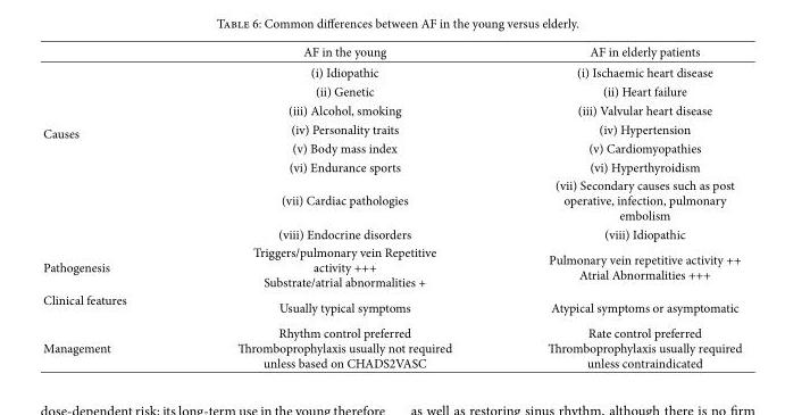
<table><thead><tr><td></td><td>AF in the young</td><td>AF in elderly patients</td></tr></thead><tbody><tr><td rowspan="8">Causes</td><td>(i) Idiopathic</td><td>(i) Ischaemic heart disease</td></tr><tr><td>(ii) Genetic</td><td>(ii) Heart failure</td></tr><tr><td>(iii) Alcohol, smoking</td><td>(iii) Valvular heart disease</td></tr><tr><td>(iv) Personality traits</td><td>(iv) Hypertension</td></tr><tr><td>(v) Body mass index</td><td>(v) Cardiomyopathies</td></tr><tr><td>(vi) Endurance sports</td><td>(vi) Hyperthyroidism</td></tr><tr><td>(vii) Cardiac pathologies</td><td>(vii) Secondary causes such as post operative, infection, pulmonary embolism</td></tr><tr><td>(viii) Endocrine disorders</td><td>(viii) Idiopathic</td></tr><tr><td>Pathogenesis</td><td>Triggers/pulmonary vein Repetitive activity +++ Substrate/atrial abnormalities +</td><td>Pulmonary vein repetitive activity ++ Atrial Abnormalities +++</td></tr><tr><td>Clinical features</td><td>Usually typical symptoms</td><td>Atypical symptoms or asymptomatic</td></tr><tr><td>Management</td><td>Rhythm control preferred romboprophylaxis usually not required unless based on CHADS2VASC</td><td>Rate control preferred romboprophylaxis usually required unless contraindicated</td></tr></tbody></table>